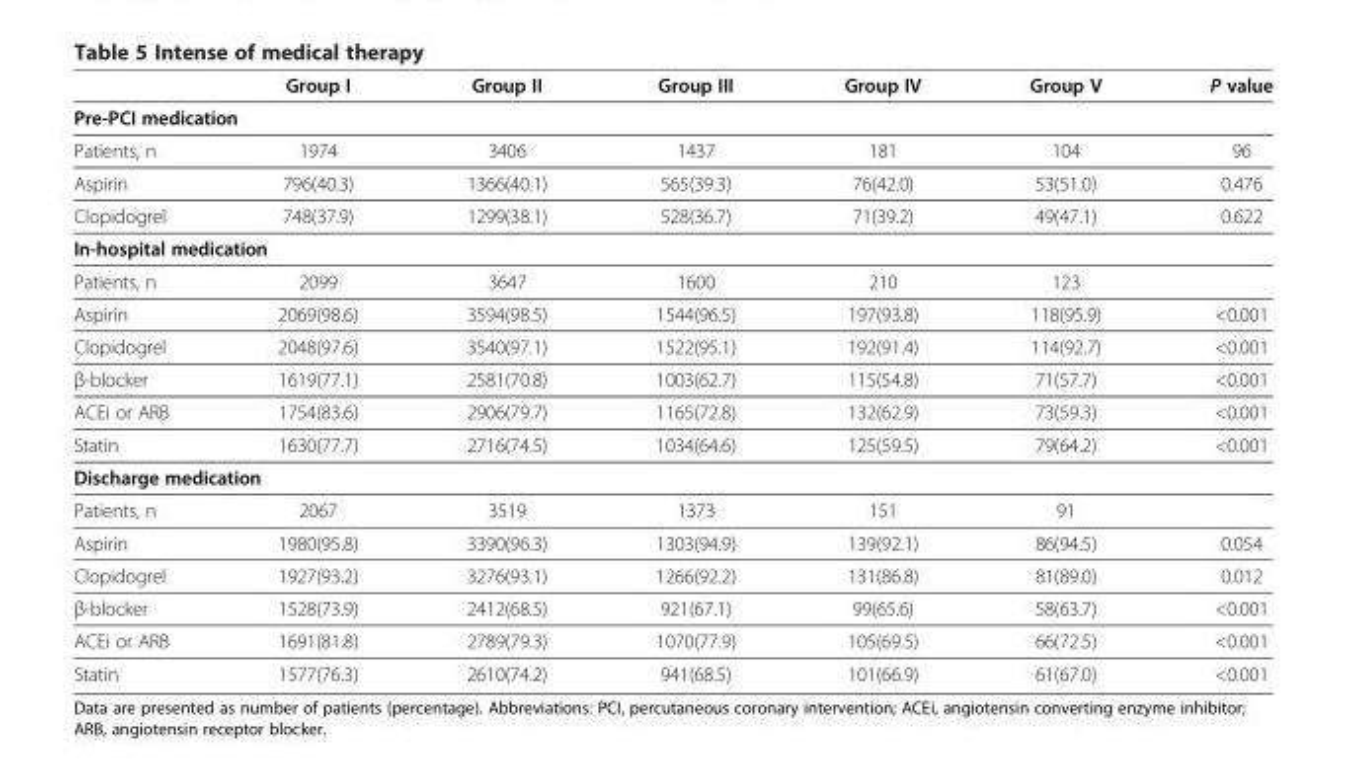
<table><thead><tr><td></td><td>Group I</td><td>Group II</td><td>Group III</td><td>Group IV</td><td>Group V</td><td>P value</td></tr></thead><tbody><tr><td colspan="7">Pre-PCI medication</td></tr><tr><td>Patients, n</td><td>1974</td><td>3406</td><td>1437</td><td>181</td><td>104</td><td>96</td></tr><tr><td>Aspirin</td><td>796(40.3)</td><td>1366(40.1)</td><td>565(39.3)</td><td>76(42.0)</td><td>53(51.0)</td><td>0.476</td></tr><tr><td>Clopidogrel</td><td>748(37.9)</td><td>1299(38.1)</td><td>528(36.7)</td><td>71(39.2)</td><td>49(47.1)</td><td>0.622</td></tr><tr><td colspan="7">In-hospital medication</td></tr><tr><td>Patients, n</td><td>2099</td><td>3647</td><td>1600</td><td>210</td><td>123</td><td></td></tr><tr><td>Aspirin</td><td>2069(98.6)</td><td>3594(98.5)</td><td>1544(96.5)</td><td>197(93.8)</td><td>118(95.9)</td><td>&lt;0.001</td></tr><tr><td>Clopidogrel</td><td>2048(97.6)</td><td>3540(97.1)</td><td>1522(95.1)</td><td>192(91.4)</td><td>114(92.7)</td><td>&lt;0.001</td></tr><tr><td>β-blocker</td><td>1619(77.1)</td><td>2581(70.8)</td><td>1003(62.7)</td><td>115(54.8)</td><td>71(57.7)</td><td>&lt;0.001</td></tr><tr><td>ACEi or ARB</td><td>1754(83.6)</td><td>2906(79.7)</td><td>1165(72.8)</td><td>132(62.9)</td><td>73(59.3)</td><td>&lt;0.001</td></tr><tr><td>Statin</td><td>1630(77.7)</td><td>2716(74.5)</td><td>1034(64.6)</td><td>125(59.5)</td><td>79(64.2)</td><td>&lt;0.001</td></tr><tr><td colspan="7">Discharge medication</td></tr><tr><td>Patients, n</td><td>2067</td><td>3519</td><td>1373</td><td>151</td><td>91</td><td></td></tr><tr><td>Aspirin</td><td>1980(95.8)</td><td>3390(96.3)</td><td>1303(94.9)</td><td>139(92.1)</td><td>86(94.5)</td><td>0.054</td></tr><tr><td>Clopidogrel</td><td>1927(93.2)</td><td>3276(93.1)</td><td>1266(92.2)</td><td>131(86.8)</td><td>81(89.0)</td><td>0.012</td></tr><tr><td>β-blocker</td><td>1528(73.9)</td><td>2412(68.5)</td><td>921(67.1)</td><td>99(65.6)</td><td>58(63.7)</td><td>&lt;0.001</td></tr><tr><td>ACEi or ARB</td><td>1691(81.8)</td><td>2789(79.3)</td><td>1070(77.9)</td><td>105(69.5)</td><td>66(72.5)</td><td>&lt;0.001</td></tr><tr><td>Statin</td><td>1577(76.3)</td><td>2610(74.2)</td><td>941(68.5)</td><td>101(66.9)</td><td>61(67.0)</td><td>&lt;0.001</td></tr></tbody></table>